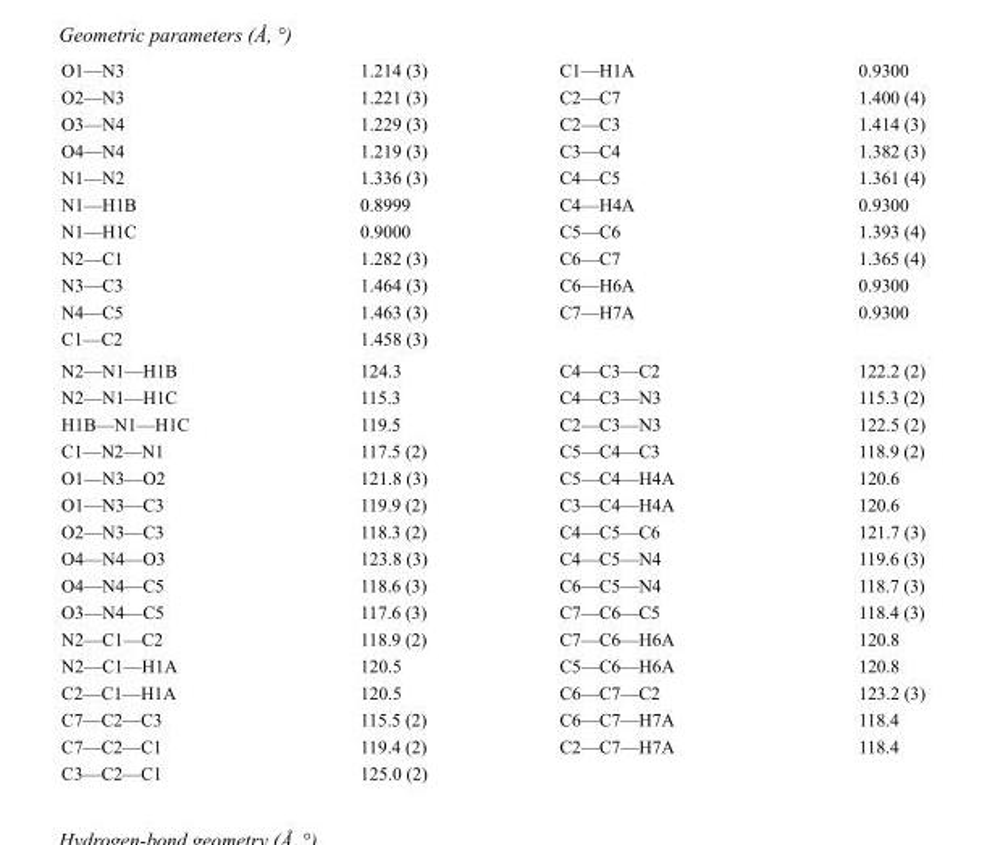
<table><tbody><tr><td>O1—N3</td><td>1.214 (3)</td><td>C1—H1A</td><td>0.9300</td></tr><tr><td>O2—N3</td><td>1.221 (3)</td><td>C2—C7</td><td>1.400 (4)</td></tr><tr><td>O3—N4</td><td>1.229 (3)</td><td>C2—C3</td><td>1.414 (3)</td></tr><tr><td>O4—N4</td><td>1.219 (3)</td><td>C3—C4</td><td>1.382 (3)</td></tr><tr><td>N1—N2</td><td>1.336 (3)</td><td>C4—C5</td><td>1.361 (4)</td></tr><tr><td>N1—H1B</td><td>0.8999</td><td>C4—H4A</td><td>0.9300</td></tr><tr><td>N1—H1C</td><td>0.9000</td><td>C5—C6</td><td>1.393 (4)</td></tr><tr><td>N2—C1</td><td>1.282 (3)</td><td>C6—C7</td><td>1.365 (4)</td></tr><tr><td>N3—C3</td><td>1.464 (3)</td><td>C6—H6A</td><td>0.9300</td></tr><tr><td>N4—C5</td><td>1.463 (3)</td><td>C7—H7A</td><td>0.9300</td></tr><tr><td>C1—C2</td><td>1.458 (3)</td><td></td><td></td></tr><tr><td>N2—N1—H1B</td><td>124.3</td><td>C4—C3—C2</td><td>122.2 (2)</td></tr><tr><td>N2—N1—H1C</td><td>115.3</td><td>C4—C3—N3</td><td>115.3 (2)</td></tr><tr><td>H1B—N1—H1C</td><td>119.5</td><td>C2—C3—N3</td><td>122.5 (2)</td></tr><tr><td>C1—N2—N1</td><td>117.5 (2)</td><td>C5—C4—C3</td><td>118.9 (2)</td></tr><tr><td>O1—N3—O2</td><td>121.8 (3)</td><td>C5—C4—H4A</td><td>120.6</td></tr><tr><td>O1—N3—C3</td><td>119.9 (2)</td><td>C3—C4—H4A</td><td>120.6</td></tr><tr><td>O2—N3—C3</td><td>118.3 (2)</td><td>C4—C5—C6</td><td>121.7 (3)</td></tr><tr><td>O4—N4—O3</td><td>123.8 (3)</td><td>C4—C5—N4</td><td>119.6 (3)</td></tr><tr><td>O4—N4—C5</td><td>118.6 (3)</td><td>C6—C5—N4</td><td>118.7 (3)</td></tr><tr><td>O3—N4—C5</td><td>117.6 (3)</td><td>C7—C6—C5</td><td>118.4 (3)</td></tr><tr><td>N2—C1—C2</td><td>118.9 (2)</td><td>C7—C6—H6A</td><td>120.8</td></tr><tr><td>N2—C1—H1A</td><td>120.5</td><td>C5—C6—H6A</td><td>120.8</td></tr><tr><td>C2—C1—H1A</td><td>120.5</td><td>C6—C7—C2</td><td>123.2 (3)</td></tr><tr><td>C7—C2—C3</td><td>115.5 (2)</td><td>C6—C7—H7A</td><td>118.4</td></tr><tr><td>C7—C2—C1</td><td>119.4 (2)</td><td>C2—C7—H7A</td><td>118.4</td></tr><tr><td>C3—C2—C1</td><td>125.0 (2)</td><td></td><td></td></tr></tbody></table>